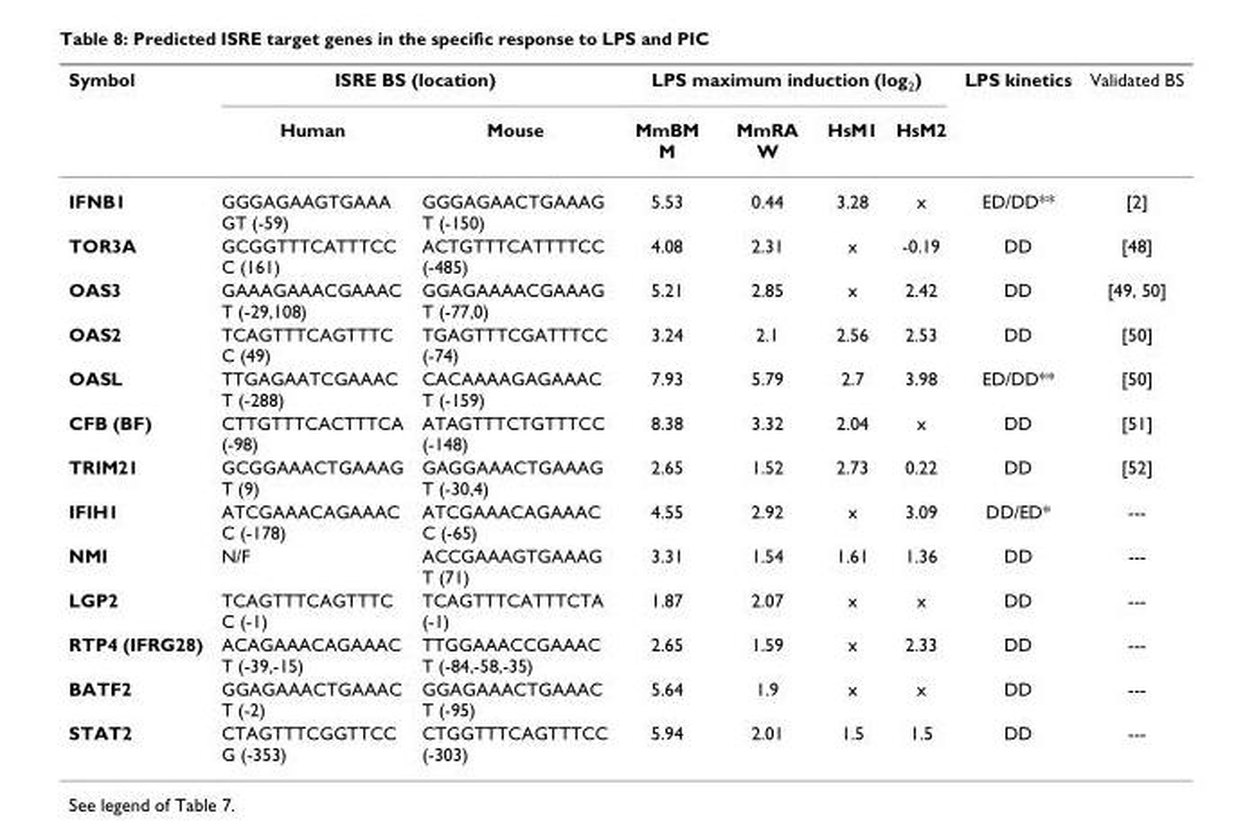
<table><thead><tr><td rowspan="2">Symbol</td><td colspan="2">ISRE BS (location)</td><td colspan="4">LPS maximum induction (log<sub>2</sub>)</td><td rowspan="2">LPS kinetics</td><td rowspan="2">Validated BS</td></tr><tr><td>Human</td><td>Mouse</td><td>MmBM M</td><td>MmRA W</td><td>HsM1</td><td>HsM2</td></tr></thead><tbody><tr><td>IFNB1</td><td>GGGAGAAGTGAAA GT (-59)</td><td>GGGAGAACTGAAAG T (-150)</td><td>5.53</td><td>0.44</td><td>3.28</td><td>x</td><td>ED/DD**</td><td>[2]</td></tr><tr><td>TOR3A</td><td>GCGGTTTCATTTCC C (161)</td><td>ACTGTTTCATTTTCC (-485)</td><td>4.08</td><td>2.31</td><td>x</td><td>-0.19</td><td>DD</td><td>[48]</td></tr><tr><td>OAS3</td><td>GAAAGAAACGAAAC T (-29,108)</td><td>GGAGAAAACGAAAG T (-77,0)</td><td>5.21</td><td>2.85</td><td>x</td><td>2.42</td><td>DD</td><td>[49, 50]</td></tr><tr><td>OAS2</td><td>TCAGTTTCAGTTTC C (49)</td><td>TGAGTTTCGATTTCC (-74)</td><td>3.24</td><td>2.1</td><td>2.56</td><td>2.53</td><td>DD</td><td>[50]</td></tr><tr><td>OASL</td><td>TTGAGAATCGAAAC T (-288)</td><td>CACAAAAGAGAAAC T (-159)</td><td>7.93</td><td>5.79</td><td>2.7</td><td>3.98</td><td>ED/DD**</td><td>[50]</td></tr><tr><td>CFB (BF)</td><td>CTTGTTTCACTTTCA (-98)</td><td>ATAGTTTCTGTTTCC (-148)</td><td>8.38</td><td>3.32</td><td>2.04</td><td>x</td><td>DD</td><td>[51]</td></tr><tr><td>TRIM21</td><td>GCGGAAACTGAAAG T (9)</td><td>GAGGAAACTGAAAG T (-30,4)</td><td>2.65</td><td>1.52</td><td>2.73</td><td>0.22</td><td>DD</td><td>[52]</td></tr><tr><td>IFIH1</td><td>ATCGAAACAGAAAC C (-178)</td><td>ATCGAAACAGAAAC C (-65)</td><td>4.55</td><td>2.92</td><td>x</td><td>3.09</td><td>DD/ED*</td><td>---</td></tr><tr><td>NMI</td><td>N/F</td><td>ACCGAAAGTGAAAG T (71)</td><td>3.31</td><td>1.54</td><td>1.61</td><td>1.36</td><td>DD</td><td>---</td></tr><tr><td>LGP2</td><td>TCAGTTTCAGTTTC C (-1)</td><td>TCAGTTTCATTTCTA (-1)</td><td>1.87</td><td>2.07</td><td>x</td><td>x</td><td>DD</td><td>---</td></tr><tr><td>RTP4 (IFRG28)</td><td>ACAGAAACAGAAAC T (-39,-15)</td><td>TTGGAAACCGAAAC T (-84,-58,-35)</td><td>2.65</td><td>1.59</td><td>x</td><td>2.33</td><td>DD</td><td>---</td></tr><tr><td>BATF2</td><td>GGAGAAACTGAAAC T (-2)</td><td>GGAGAAACTGAAAC T (-95)</td><td>5.64</td><td>1.9</td><td>x</td><td>x</td><td>DD</td><td>---</td></tr><tr><td>STAT2</td><td>CTAGTTTCGGTTCC G (-353)</td><td>CTGGTTTCAGTTTCC (-303)</td><td>5.94</td><td>2.01</td><td>1.5</td><td>1.5</td><td>DD</td><td>---</td></tr></tbody></table>